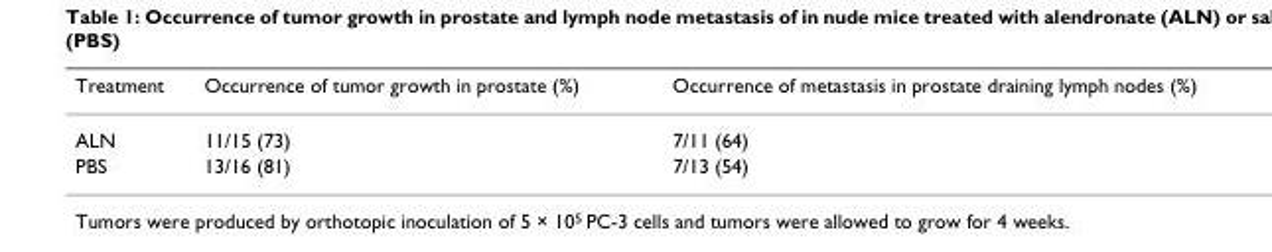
<table><thead><tr><td>Treatment</td><td>Occurrence of tumor growth in prostate (%)</td><td>Occurrence of metastasis in prostate draining lymph nodes (%)</td></tr></thead><tbody><tr><td>ALN</td><td>11/15 (73)</td><td>7/11 (64)</td></tr><tr><td>PBS</td><td>13/16 (81)</td><td>7/13 (54)</td></tr></tbody></table>